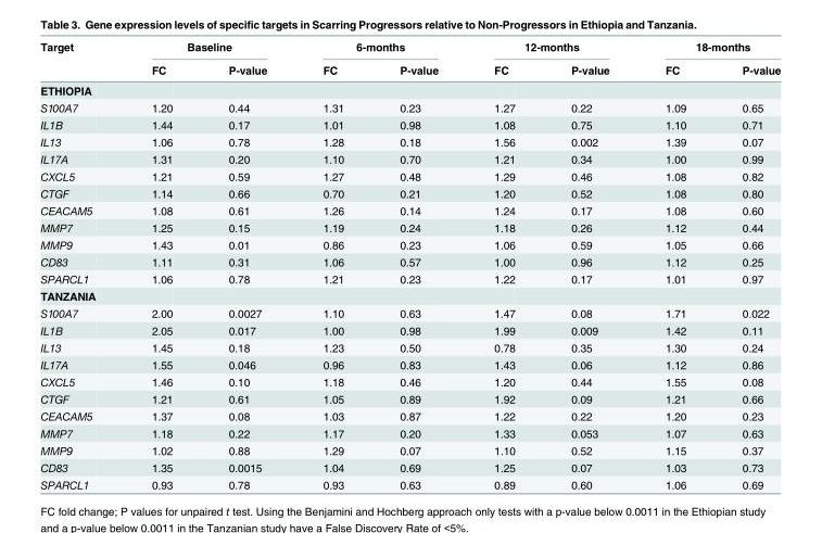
<table><thead><tr><td rowspan="2">Target</td><td colspan="2">Baseline</td><td colspan="2">6-months</td><td colspan="2">12-months</td><td colspan="2">18-months</td></tr><tr><td>FC</td><td>P-value</td><td>FC</td><td>P-value</td><td>FC</td><td>P-value</td><td>FC</td><td>P-value</td></tr></thead><tbody><tr><td colspan="9">ETHIOPIA</td></tr><tr><td>S100A7</td><td>1.20</td><td>0.44</td><td>1.31</td><td>0.23</td><td>1.27</td><td>0.22</td><td>1.09</td><td>0.65</td></tr><tr><td>IL1B</td><td>1.44</td><td>0.17</td><td>1.01</td><td>0.98</td><td>1.08</td><td>0.75</td><td>1.10</td><td>0.71</td></tr><tr><td>IL13</td><td>1.06</td><td>0.78</td><td>1.28</td><td>0.18</td><td>1.56</td><td>0.002</td><td>1.39</td><td>0.07</td></tr><tr><td>IL17A</td><td>1.31</td><td>0.20</td><td>1.10</td><td>0.70</td><td>1.21</td><td>0.34</td><td>1.00</td><td>0.99</td></tr><tr><td>CXCL5</td><td>1.21</td><td>0.59</td><td>1.27</td><td>0.48</td><td>1.29</td><td>0.46</td><td>1.08</td><td>0.82</td></tr><tr><td>CTGF</td><td>1.14</td><td>0.66</td><td>0.70</td><td>0.21</td><td>1.20</td><td>0.52</td><td>1.08</td><td>0.80</td></tr><tr><td>CEACAM5</td><td>1.08</td><td>0.61</td><td>1.26</td><td>0.14</td><td>1.24</td><td>0.17</td><td>1.08</td><td>0.60</td></tr><tr><td>MMP7</td><td>1.25</td><td>0.15</td><td>1.19</td><td>0.24</td><td>1.18</td><td>0.26</td><td>1.12</td><td>0.44</td></tr><tr><td>MMP9</td><td>1.43</td><td>0.01</td><td>0.86</td><td>0.23</td><td>1.06</td><td>0.59</td><td>1.05</td><td>0.66</td></tr><tr><td>CD83</td><td>1.11</td><td>0.31</td><td>1.06</td><td>0.57</td><td>1.00</td><td>0.96</td><td>1.12</td><td>0.25</td></tr><tr><td>SPARCL1</td><td>1.06</td><td>0.78</td><td>1.21</td><td>0.23</td><td>1.22</td><td>0.17</td><td>1.01</td><td>0.97</td></tr><tr><td colspan="9">TANZANIA</td></tr><tr><td>S100A7</td><td>2.00</td><td>0.0027</td><td>1.10</td><td>0.63</td><td>1.47</td><td>0.08</td><td>1.71</td><td>0.022</td></tr><tr><td>IL1B</td><td>2.05</td><td>0.017</td><td>1.00</td><td>0.98</td><td>1.99</td><td>0.009</td><td>1.42</td><td>0.11</td></tr><tr><td>IL13</td><td>1.45</td><td>0.18</td><td>1.23</td><td>0.50</td><td>0.78</td><td>0.35</td><td>1.30</td><td>0.24</td></tr><tr><td>IL17A</td><td>1.55</td><td>0.046</td><td>0.96</td><td>0.83</td><td>1.43</td><td>0.06</td><td>1.12</td><td>0.86</td></tr><tr><td>CXCL5</td><td>1.46</td><td>0.10</td><td>1.18</td><td>0.46</td><td>1.20</td><td>0.44</td><td>1.55</td><td>0.08</td></tr><tr><td>CTGF</td><td>1.21</td><td>0.61</td><td>1.05</td><td>0.89</td><td>1.92</td><td>0.09</td><td>1.21</td><td>0.66</td></tr><tr><td>CEACAM5</td><td>1.37</td><td>0.08</td><td>1.03</td><td>0.87</td><td>1.22</td><td>0.22</td><td>1.20</td><td>0.23</td></tr><tr><td>MMP7</td><td>1.18</td><td>0.22</td><td>1.17</td><td>0.20</td><td>1.33</td><td>0.053</td><td>1.07</td><td>0.63</td></tr><tr><td>MMP9</td><td>1.02</td><td>0.88</td><td>1.29</td><td>0.07</td><td>1.10</td><td>0.52</td><td>1.15</td><td>0.37</td></tr><tr><td>CD83</td><td>1.35</td><td>0.0015</td><td>1.04</td><td>0.69</td><td>1.25</td><td>0.07</td><td>1.03</td><td>0.73</td></tr><tr><td>SPARCL1</td><td>0.93</td><td>0.78</td><td>0.93</td><td>0.63</td><td>0.89</td><td>0.60</td><td>1.06</td><td>0.69</td></tr></tbody></table>